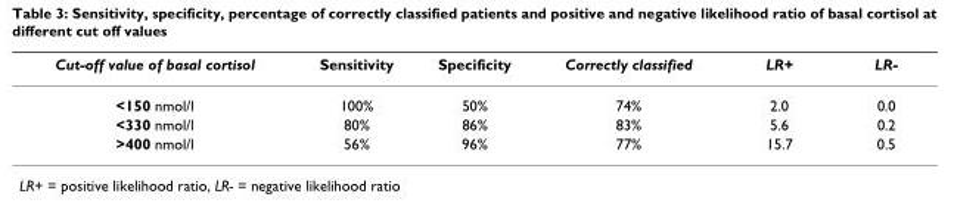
<table><thead><tr><td>Cut-off value of basal cortisol</td><td>Sensitivity</td><td>Specificity</td><td>Correctly classified</td><td>LR+</td><td>LR-</td></tr></thead><tbody><tr><td>&lt;150 nmol/l</td><td>100%</td><td>50%</td><td>74%</td><td>2.0</td><td>0.0</td></tr><tr><td>&lt;330 nmol/l</td><td>80%</td><td>86%</td><td>83%</td><td>5.6</td><td>0.2</td></tr><tr><td>&gt;400 nmol/l</td><td>56%</td><td>96%</td><td>77%</td><td>15.7</td><td>0.5</td></tr></tbody></table>